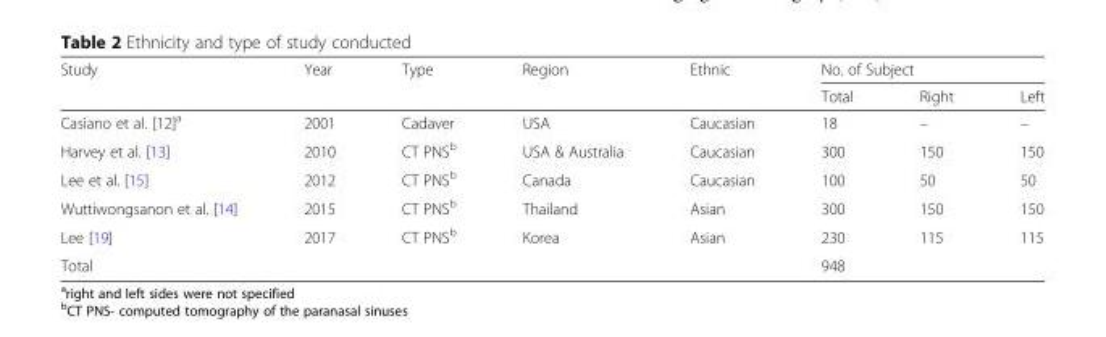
<table><thead><tr><td rowspan="2">Study</td><td rowspan="2">Year</td><td rowspan="2">Type</td><td rowspan="2">Region</td><td rowspan="2">Ethnic</td><td colspan="3">No. of Subject</td></tr><tr><td>Total</td><td>Right</td><td>Left</td></tr></thead><tbody><tr><td>Casiano et al. [12]<sup>a</sup></td><td>2001</td><td>Cadaver</td><td>USA</td><td>Caucasian</td><td>18</td><td>–</td><td>–</td></tr><tr><td>Harvey et al. [13]</td><td>2010</td><td>CT PNS<sup>b</sup></td><td>USA &amp; Australia</td><td>Caucasian</td><td>300</td><td>150</td><td>150</td></tr><tr><td>Lee et al. [15]</td><td>2012</td><td>CT PNS<sup>b</sup></td><td>Canada</td><td>Caucasian</td><td>100</td><td>50</td><td>50</td></tr><tr><td>Wuttiwongsanon et al. [14]</td><td>2015</td><td>CT PNS<sup>b</sup></td><td>Thailand</td><td>Asian</td><td>300</td><td>150</td><td>150</td></tr><tr><td>Lee [19]</td><td>2017</td><td>CT PNS<sup>b</sup></td><td>Korea</td><td>Asian</td><td>230</td><td>115</td><td>115</td></tr><tr><td colspan="5">Total</td><td>948</td><td></td><td></td></tr></tbody></table>